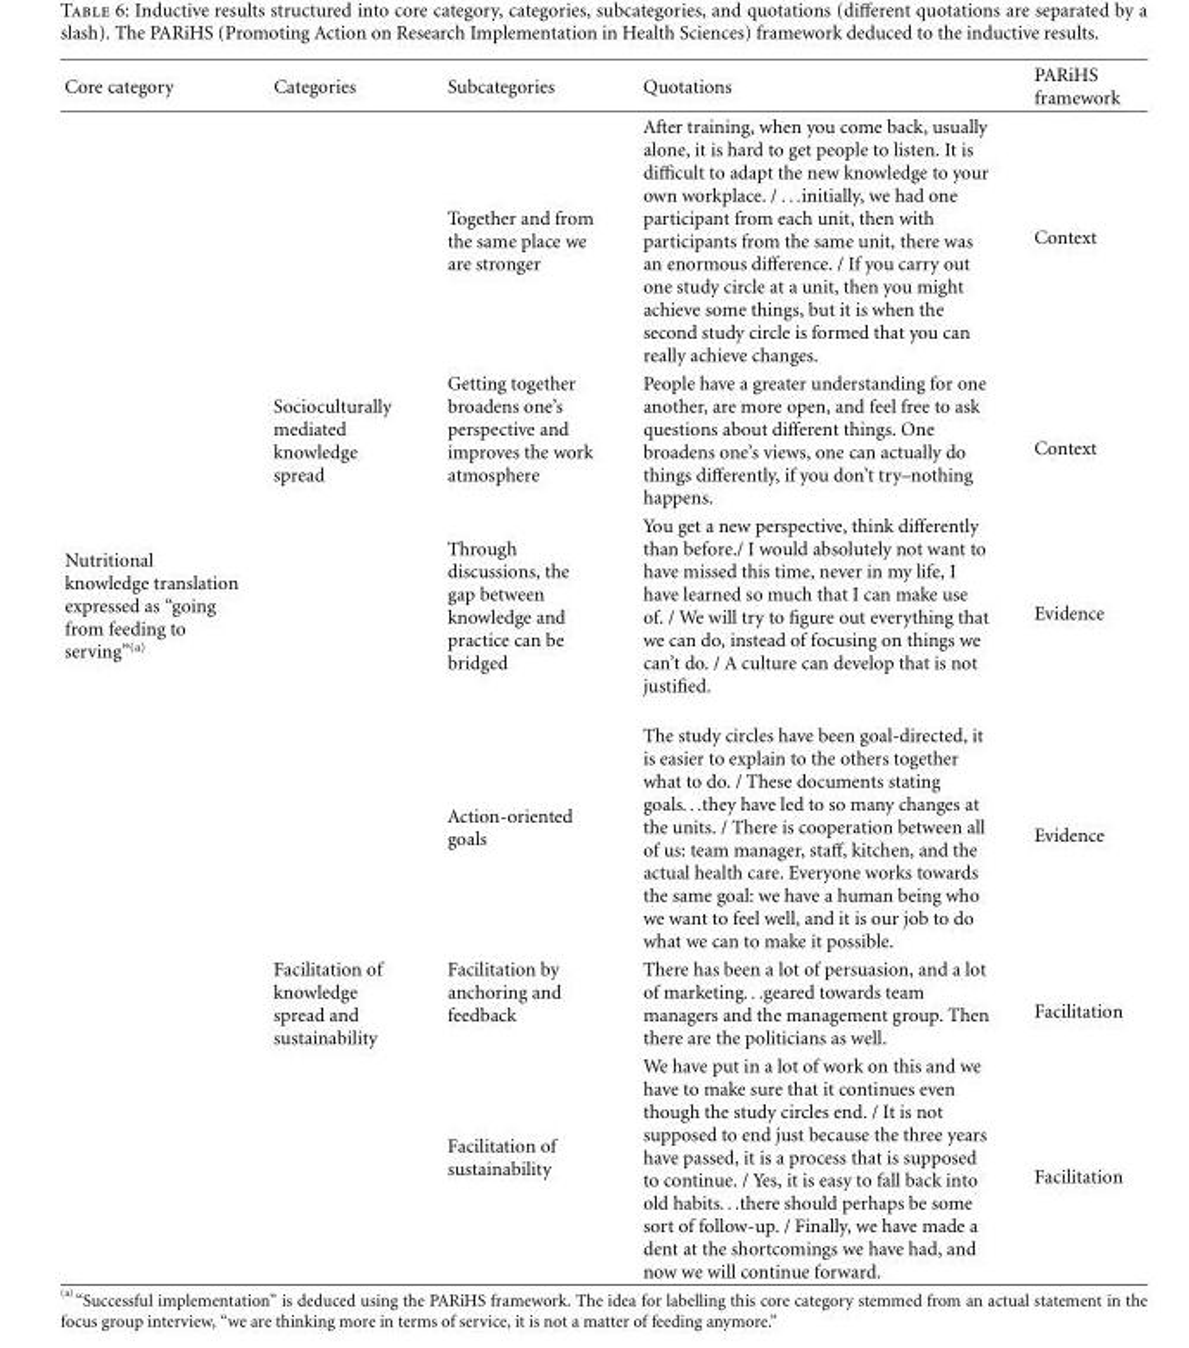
<table><thead><tr><td>Core category</td><td>Categories</td><td>Subcategories</td><td>Quotations</td><td>PARiHS framework</td></tr></thead><tbody><tr><td></td><td></td><td>Together and from the same place we are stronger</td><td>After training, when you come back, usually alone, it is hard to get people to listen. It is difficult to adapt the new knowledge to your own workplace. / ...initially, we had one participant from each unit, then with participants from the same unit, there was an enormous difference. / If you carry out one study circle at a unit, then you might achieve some things, but it is when the second study circle is formed that you can really achieve changes.</td><td>Context</td></tr><tr><td></td><td>Socioculturally mediated knowledge spread</td><td>Getting together broadens one’s perspective and improves the work atmosphere</td><td>People have a greater understanding for one another, are more open, and feel free to ask questions about different things. One broadens one’s views, one can actually do things differently, if you don’t try–nothing happens.</td><td>Context</td></tr><tr><td rowspan="4">Nutritional knowledge translation expressed as “going from feeding to serving”<sup>(a)</sup></td><td></td><td>Through discussions, the gap between knowledge and practice can be bridged</td><td>You get a new perspective, think differently than before./ I would absolutely not want to have missed this time, never in my life, I have learned so much that I can make use of. / We will try to figure out everything that we can do, instead of focusing on things we can’t do. / A culture can develop that is not justified.</td><td>Evidence</td></tr><tr><td></td><td>Action-oriented goals</td><td>The study circles have been goal-directed, it is easier to explain to the others together what to do. / These documents stating goals...they have led to so many changes at the units. / There is cooperation between all of us: team manager, staff, kitchen, and the actual health care. Everyone works towards the same goal: we have a human being who we want to feel well, and it is our job to do what we can to make it possible.</td><td>Evidence</td></tr><tr><td>Facilitation of knowledge spread and sustainability</td><td>Facilitation by anchoring and feedback</td><td>There has been a lot of persuasion, and a lot of marketing...geared towards team managers and the management group. Then there are the politicians as well.</td><td>Facilitation</td></tr><tr><td></td><td>Facilitation of sustainability</td><td>We have put in a lot of work on this and we have to make sure that it continues even though the study circles end. / It is not supposed to end just because the three years have passed, it is a process that is supposed to continue. / Yes, it is easy to fall back into old habits...there should perhaps be some sort of follow-up. / Finally, we have made a dent at the shortcomings we have had, and now we will continue forward.</td><td>Facilitation</td></tr></tbody></table>